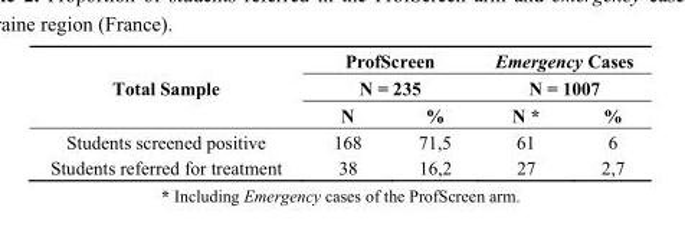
<table><thead><tr><td rowspan="3">Total Sample</td><td rowspan="2" colspan="2">ProfScreen N = 235</td><td rowspan="2" colspan="2">Emergency Cases N = 1007</td></tr><tr></tr><tr><td>N</td><td>%</td><td>N *</td><td>%</td></tr></thead><tbody><tr><td>Students screened positive</td><td>168</td><td>71,5</td><td>61</td><td>6</td></tr><tr><td>Students referred for treatment</td><td>38</td><td>16,2</td><td>27</td><td>2,7</td></tr></tbody></table>